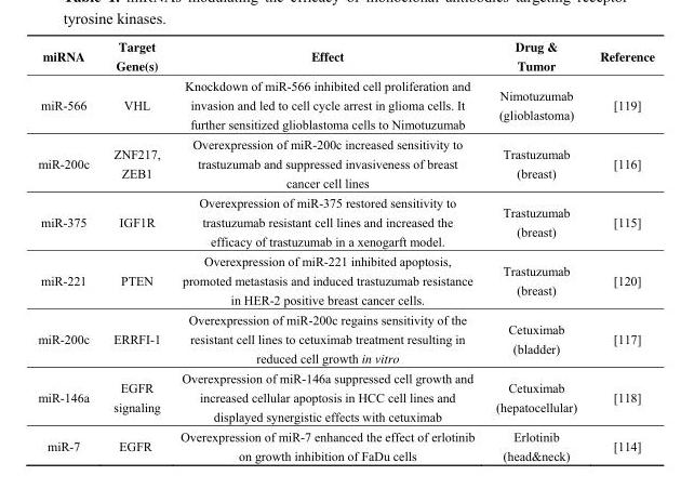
<table><thead><tr><td>miRNA</td><td>Target Gene(s)</td><td>Effect</td><td>Drug &amp; Tumor</td><td>Reference</td></tr></thead><tbody><tr><td>miR-566</td><td>VHL</td><td>Knockdown of miR-566 inhibited cell proliferation and invasion and led to cell cycle arrest in glioma cells. It further sensitized glioblastoma cells to Nimotuzumab</td><td>Nimotuzumab (glioblastoma)</td><td>[119]</td></tr><tr><td>miR-200c</td><td>ZNF217, ZEB1</td><td>Overexpression of miR-200c increased sensitivity to trastuzumab and suppressed invasiveness of breast cancer cell lines</td><td>Trastuzumab (breast)</td><td>[116]</td></tr><tr><td>miR-375</td><td>IGF1R</td><td>Overexpression of miR-375 restored sensitivity to trastuzumab resistant cell lines and increased the efficacy of trastuzumab in a xenogarft model.</td><td>Trastuzumab (breast)</td><td>[115]</td></tr><tr><td>miR-221</td><td>PTEN</td><td>Overexpression of miR-221 inhibited apoptosis, promoted metastasis and induced trastuzumab resistance in HER-2 positive breast cancer cells.</td><td>Trastuzumab (breast)</td><td>[120]</td></tr><tr><td>miR-200c</td><td>ERRFI-1</td><td>Overexpression of miR-200c regains sensitivity of the resistant cell lines to cetuximab treatment resulting in reduced cell growth in vitro</td><td>Cetuximab (bladder)</td><td>[117]</td></tr><tr><td>miR-146a</td><td>EGFR signaling</td><td>Overexpression of miR-146a suppressed cell growth and increased cellular apoptosis in HCC cell lines and displayed synergistic effects with cetuximab</td><td>Cetuximab (hepatocellular)</td><td>[118]</td></tr><tr><td>miR-7</td><td>EGFR</td><td>Overexpression of miR-7 enhanced the effect of erlotinib on growth inhibition of FaDu cells</td><td>Erlotinib (head&amp;neck)</td><td>[114]</td></tr></tbody></table>